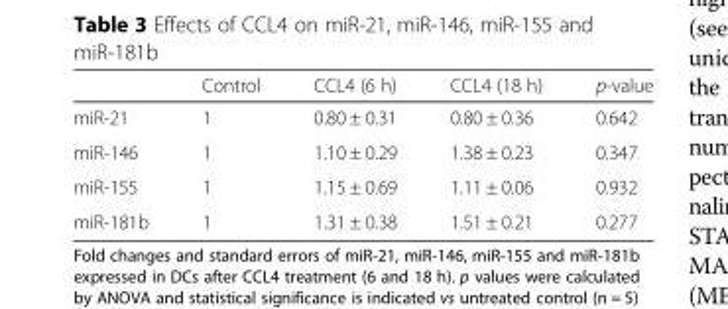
<table><thead><tr><td></td><td>Control</td><td>CCL4 (6 h)</td><td>CCL4 (18 h)</td><td>p-value</td></tr></thead><tbody><tr><td>miR-21</td><td>1</td><td>0.80 ± 0.31</td><td>0.80 ± 0.36</td><td>0.642</td></tr><tr><td>miR-146</td><td>1</td><td>1.10 ± 0.29</td><td>1.38 ± 0.23</td><td>0.347</td></tr><tr><td>miR-155</td><td>1</td><td>1.15 ± 0.69</td><td>1.11 ± 0.06</td><td>0.932</td></tr><tr><td>miR-181b</td><td>1</td><td>1.31 ± 0.38</td><td>1.51 ± 0.21</td><td>0.277</td></tr></tbody></table>